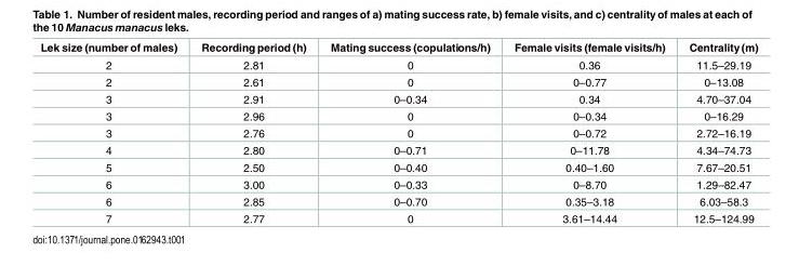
<table><thead><tr><td>Lek size (number of males)</td><td>Recording period (h)</td><td>Mating success (copulations/h)</td><td>Female visits (female visits/h)</td><td>Centrality (m)</td></tr></thead><tbody><tr><td>2</td><td>2.81</td><td>0</td><td>0.36</td><td>11.5–29.19</td></tr><tr><td>2</td><td>2.61</td><td>0</td><td>0–0.77</td><td>0–13.08</td></tr><tr><td>3</td><td>2.91</td><td>0–0.34</td><td>0.34</td><td>4.70–37.04</td></tr><tr><td>3</td><td>2.96</td><td>0</td><td>0–0.34</td><td>0–16.29</td></tr><tr><td>3</td><td>2.76</td><td>0</td><td>0–0.72</td><td>2.72–16.19</td></tr><tr><td>4</td><td>2.80</td><td>0–0.71</td><td>0–11.78</td><td>4.34–74.73</td></tr><tr><td>5</td><td>2.50</td><td>0–0.40</td><td>0.40–1.60</td><td>7.67–20.51</td></tr><tr><td>6</td><td>3.00</td><td>0–0.33</td><td>0–8.70</td><td>1.29–82.47</td></tr><tr><td>6</td><td>2.85</td><td>0–0.70</td><td>0.35–3.18</td><td>6.03–58.3</td></tr><tr><td>7</td><td>2.77</td><td>0</td><td>3.61–14.44</td><td>12.5–124.99</td></tr></tbody></table>